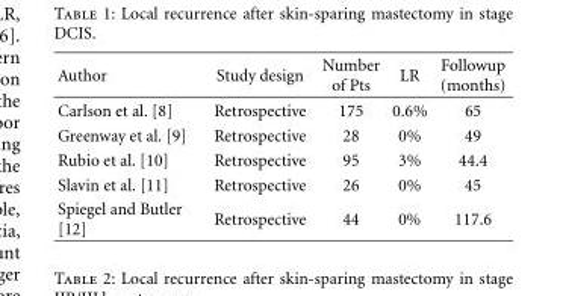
<table><thead><tr><td>Author</td><td>Study design</td><td>Number of Pts</td><td>LR</td><td>Followup (months)</td></tr></thead><tbody><tr><td>Carlson et al. [8]</td><td>Retrospective</td><td>175</td><td>0.6%</td><td>65</td></tr><tr><td>Greenway et al. [9]</td><td>Retrospective</td><td>28</td><td>0%</td><td>49</td></tr><tr><td>Rubio et al. [10]</td><td>Retrospective</td><td>95</td><td>3%</td><td>44.4</td></tr><tr><td>Slavin et al. [11]</td><td>Retrospective</td><td>26</td><td>0%</td><td>45</td></tr><tr><td>Spiegel and Butler [12]</td><td>Retrospective</td><td>44</td><td>0%</td><td>117.6</td></tr></tbody></table>